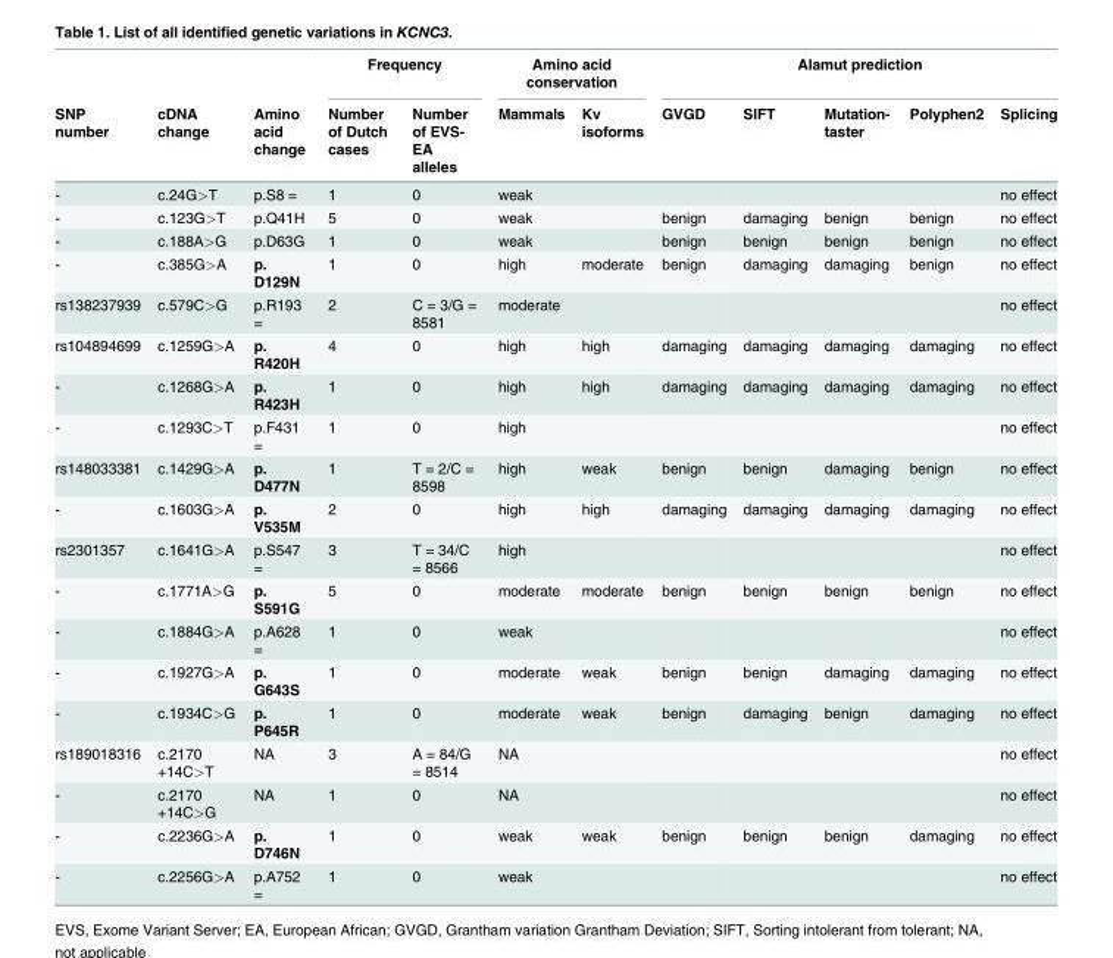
<table><thead><tr><td rowspan="2">SNP number</td><td rowspan="2">cDNA change</td><td rowspan="2">Amino acid change</td><td colspan="2">Frequency</td><td colspan="2">Amino acid conservation</td><td colspan="5">Alamut prediction</td></tr><tr><td>Number of Dutch cases</td><td>Number of EVS- EA alleles</td><td>Mammals</td><td>Kv isoforms</td><td>GVGD</td><td>SIFT</td><td>Mutation- taster</td><td>Polyphen2</td><td>Splicing</td></tr></thead><tbody><tr><td>-</td><td>c.24G&gt;T</td><td>p.S8 =</td><td>1</td><td>0</td><td>weak</td><td></td><td></td><td></td><td></td><td></td><td>no effect</td></tr><tr><td>-</td><td>c.123G&gt;T</td><td>p.Q41H</td><td>5</td><td>0</td><td>weak</td><td></td><td>benign</td><td>damaging</td><td>benign</td><td>benign</td><td>no effect</td></tr><tr><td>-</td><td>c.188A&gt;G</td><td>p.D63G</td><td>1</td><td>0</td><td>weak</td><td></td><td>benign</td><td>benign</td><td>benign</td><td>benign</td><td>no effect</td></tr><tr><td>-</td><td>c.385G&gt;A</td><td>p. D129N</td><td>1</td><td>0</td><td>high</td><td>moderate</td><td>benign</td><td>damaging</td><td>damaging</td><td>benign</td><td>no effect</td></tr><tr><td>rs138237939</td><td>c.579C&gt;G</td><td>p.R193 =</td><td>2</td><td>C = 3/G = 8581</td><td>moderate</td><td></td><td></td><td></td><td></td><td></td><td>no effect</td></tr><tr><td>rs104894699</td><td>c.1259G&gt;A</td><td>p. R420H</td><td>4</td><td>0</td><td>high</td><td>high</td><td>damaging</td><td>damaging</td><td>damaging</td><td>damaging</td><td>no effect</td></tr><tr><td>-</td><td>c.1268G&gt;A</td><td>p. R423H</td><td>1</td><td>0</td><td>high</td><td>high</td><td>damaging</td><td>damaging</td><td>damaging</td><td>damaging</td><td>no effect</td></tr><tr><td>-</td><td>c.1293C&gt;T</td><td>p.F431 =</td><td>1</td><td>0</td><td>high</td><td></td><td></td><td></td><td></td><td></td><td>no effect</td></tr><tr><td>rs148033381</td><td>c.1429G&gt;A</td><td>p. D477N</td><td>1</td><td>T = 2/C = 8598</td><td>high</td><td>weak</td><td>benign</td><td>benign</td><td>damaging</td><td>benign</td><td>no effect</td></tr><tr><td>-</td><td>c.1603G&gt;A</td><td>p. V535M</td><td>2</td><td>0</td><td>high</td><td>high</td><td>damaging</td><td>damaging</td><td>damaging</td><td>damaging</td><td>no effect</td></tr><tr><td>rs2301357</td><td>c.1641G&gt;A</td><td>p.S547 =</td><td>3</td><td>T = 34/C = 8566</td><td>high</td><td></td><td></td><td></td><td></td><td></td><td>no effect</td></tr><tr><td>-</td><td>c.1771A&gt;G</td><td>p. S591G</td><td>5</td><td>0</td><td>moderate</td><td>moderate</td><td>benign</td><td>benign</td><td>benign</td><td>benign</td><td>no effect</td></tr><tr><td>-</td><td>c.1884G&gt;A</td><td>p.A628 =</td><td>1</td><td>0</td><td>weak</td><td></td><td></td><td></td><td></td><td></td><td>no effect</td></tr><tr><td>-</td><td>c.1927G&gt;A</td><td>p. G643S</td><td>1</td><td>0</td><td>moderate</td><td>weak</td><td>benign</td><td>benign</td><td>damaging</td><td>damaging</td><td>no effect</td></tr><tr><td>-</td><td>c.1934C&gt;G</td><td>p. P645R</td><td>1</td><td>0</td><td>moderate</td><td>weak</td><td>benign</td><td>damaging</td><td>benign</td><td>damaging</td><td>no effect</td></tr><tr><td>rs189018316</td><td>c.2170 +14C&gt;T</td><td>NA</td><td>3</td><td>A = 84/G = 8514</td><td>NA</td><td></td><td></td><td></td><td></td><td></td><td>no effect</td></tr><tr><td>-</td><td>c.2170 +14C&gt;G</td><td>NA</td><td>1</td><td>0</td><td>NA</td><td></td><td></td><td></td><td></td><td></td><td>no effect</td></tr><tr><td>-</td><td>c.2236G&gt;A</td><td>p. D746N</td><td>1</td><td>0</td><td>weak</td><td>weak</td><td>benign</td><td>benign</td><td>benign</td><td>damaging</td><td>no effect</td></tr><tr><td>-</td><td>c.2256G&gt;A</td><td>p.A752 =</td><td>1</td><td>0</td><td>weak</td><td></td><td></td><td></td><td></td><td></td><td>no effect</td></tr></tbody></table>